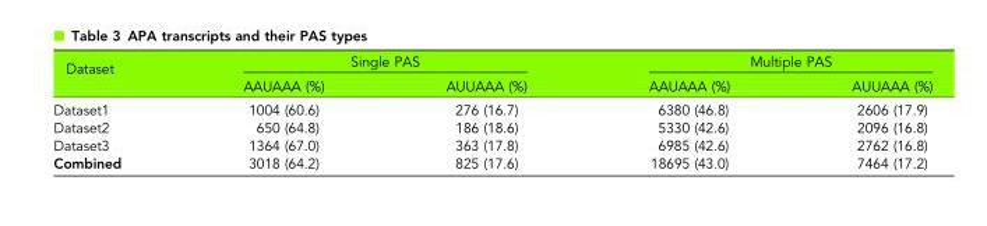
<table><thead><tr><td rowspan="2">Dataset</td><td colspan="2">Single PAS</td><td colspan="2">Multiple PAS</td></tr><tr><td>AAUAAA (%)</td><td>AUUAAA (%)</td><td>AAUAAA (%)</td><td>AUUAAA (%)</td></tr></thead><tbody><tr><td>Dataset1</td><td>1004 (60.6)</td><td>276 (16.7)</td><td>6380 (46.8)</td><td>2606 (17.9)</td></tr><tr><td>Dataset2</td><td>650 (64.8)</td><td>186 (18.6)</td><td>5330 (42.6)</td><td>2096 (16.8)</td></tr><tr><td>Dataset3</td><td>1364 (67.0)</td><td>363 (17.8)</td><td>6985 (42.6)</td><td>2762 (16.8)</td></tr><tr><td>Combined</td><td>3018 (64.2)</td><td>825 (17.6)</td><td>18695 (43.0)</td><td>7464 (17.2)</td></tr></tbody></table>